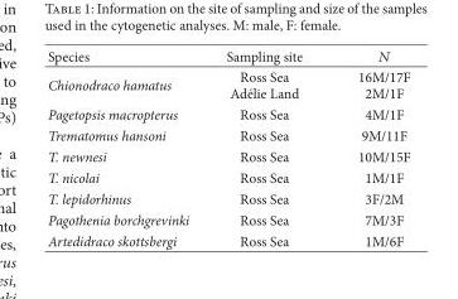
<table><thead><tr><td>Species</td><td>Sampling site</td><td>𝑁𝑁</td></tr></thead><tbody><tr><td>Chionodraco hamatus</td><td>Ross Sea Adélie Land</td><td>16M/17F 2M/1F</td></tr><tr><td>Pagetopsis macropterus</td><td>Ross Sea</td><td>4M/1F</td></tr><tr><td>Trematomus hansoni</td><td>Ross Sea</td><td>9M/11F</td></tr><tr><td>T. newnesi</td><td>Ross Sea</td><td>10M/15F</td></tr><tr><td>T. nicolai</td><td>Ross Sea</td><td>1M/1F</td></tr><tr><td>T. lepidorhinus</td><td>Ross Sea</td><td>3F/2M</td></tr><tr><td>Pagothenia borchgrevinki</td><td>Ross Sea</td><td>7M/3F</td></tr><tr><td>Artedidraco skottsbergi</td><td>Ross Sea</td><td>1M/6F</td></tr></tbody></table>